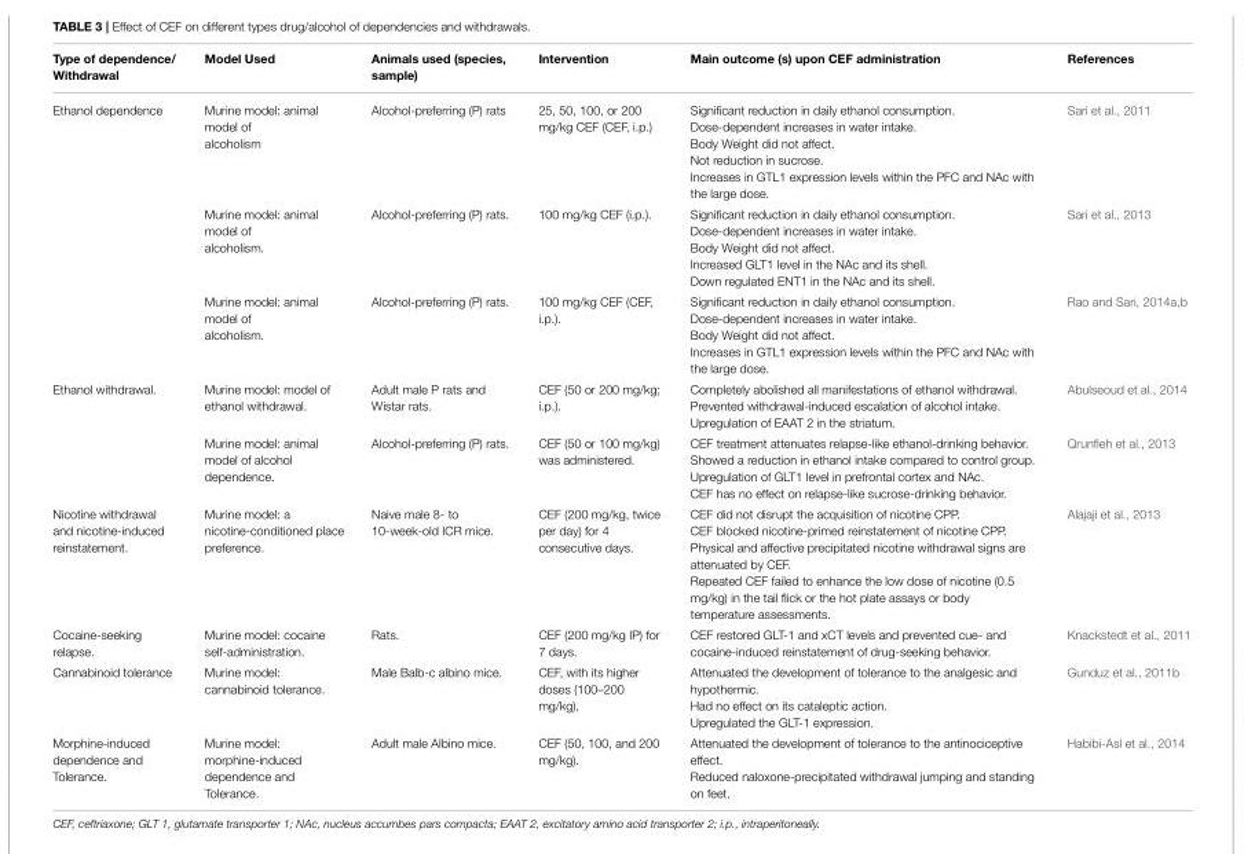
<table><thead><tr><td>Type of dependence/ Withdrawal</td><td>Model Used</td><td>Animals used (species, sample)</td><td>Intervention</td><td>Main outcome (s) upon CEF administration</td><td>References</td></tr></thead><tbody><tr><td rowspan="3">Ethanol dependence</td><td>Murine model: animal model of alcoholism</td><td>Alcohol-preferring (P) rats</td><td>25, 50, 100, or 200 mg/kg CEF (CEF, i.p.)</td><td>Significant reduction in daily ethanol consumption. Dose-dependent increases in water intake. Body Weight did not affect. Not reduction in sucrose. Increases in GTL1 expression levels within the PFC and NAc with the large dose.</td><td>Sari et al., 2011</td></tr><tr><td>Murine model: animal model of alcoholism.</td><td>Alcohol-preferring (P) rats.</td><td>100 mg/kg CEF (i.p.).</td><td>Significant reduction in daily ethanol consumption. Dose-dependent increases in water intake. Body Weight did not affect. Increased GLT1 level in the NAc and its shell. Down regulated ENT1 in the NAc and its shell.</td><td>Sari et al., 2013</td></tr><tr><td>Murine model: animal model of alcoholism.</td><td>Alcohol-preferring (P) rats.</td><td>100 mg/kg CEF (CEF, i.p.).</td><td>Significant reduction in daily ethanol consumption. Dose-dependent increases in water intake. Body Weight did not affect. Increases in GTL1 expression levels within the PFC and NAc with the large dose.</td><td>Rao and Sari, 2014a,b</td></tr><tr><td rowspan="2">Ethanol withdrawal.</td><td>Murine model: model of ethanol withdrawal.</td><td>Adult male P rats and Wistar rats.</td><td>CEF (50 or 200 mg/kg; i.p.).</td><td>Completely abolished all manifestations of ethanol withdrawal. Prevented withdrawal-induced escalation of alcohol intake. Upregulation of EAAT 2 in the striatum.</td><td>Abulseoud et al., 2014</td></tr><tr><td>Murine model: animal model of alcohol dependence.</td><td>Alcohol-preferring (P) rats.</td><td>CEF (50 or 100 mg/kg) was administered.</td><td>CEF treatment attenuates relapse-like ethanol-drinking behavior. Showed a reduction in ethanol intake compared to control group. Upregulation of GLT1 level in prefrontal cortex and NAc. CEF has no effect on relapse-like sucrose-drinking behavior.</td><td>Qrunfleh et al., 2013</td></tr><tr><td>Nicotine withdrawal and nicotine-induced reinstatement.</td><td>Murine model: a nicotine-conditioned place preference.</td><td>Naive male 8- to 10-week-old ICR mice.</td><td>CEF (200 mg/kg, twice per day) for 4 consecutive days.</td><td>CEF did not disrupt the acquisition of nicotine CPP. CEF blocked nicotine-primed reinstatement of nicotine CPP. Physical and affective precipitated nicotine withdrawal signs are attenuated by CEF. Repeated CEF failed to enhance the low dose of nicotine (0.5 mg/kg) in the tail flick or the hot plate assays or body temperature assessments.</td><td>Alajaji et al., 2013</td></tr><tr><td>Cocaine-seeking relapse.</td><td>Murine model: cocaine self-administration.</td><td>Rats.</td><td>CEF (200 mg/kg IP) for 7 days.</td><td>CEF restored GLT-1 and xCT levels and prevented cue- and cocaine-induced reinstatement of drug-seeking behavior.</td><td>Knackstedt et al., 2011</td></tr><tr><td>Cannabinoid tolerance</td><td>Murine model: cannabinoid tolerance.</td><td>Male Balb-c albino mice.</td><td>CEF, with its higher doses (100–200 mg/kg),</td><td>Attenuated the development of tolerance to the analgesic and hypothermic. Had no effect on its cataleptic action. Upregulated the GLT-1 expression.</td><td>Gunduz et al., 2011b</td></tr><tr><td>Morphine-induced dependence and Tolerance.</td><td>Murine model: morphine-induced dependence and Tolerance.</td><td>Adult male Albino mice.</td><td>CEF (50, 100, and 200 mg/kg).</td><td>Attenuated the development of tolerance to the antinociceptive effect. Reduced naloxone-precipitated withdrawal jumping and standing on feet.</td><td>Habibi-Asl et al., 2014</td></tr></tbody></table>